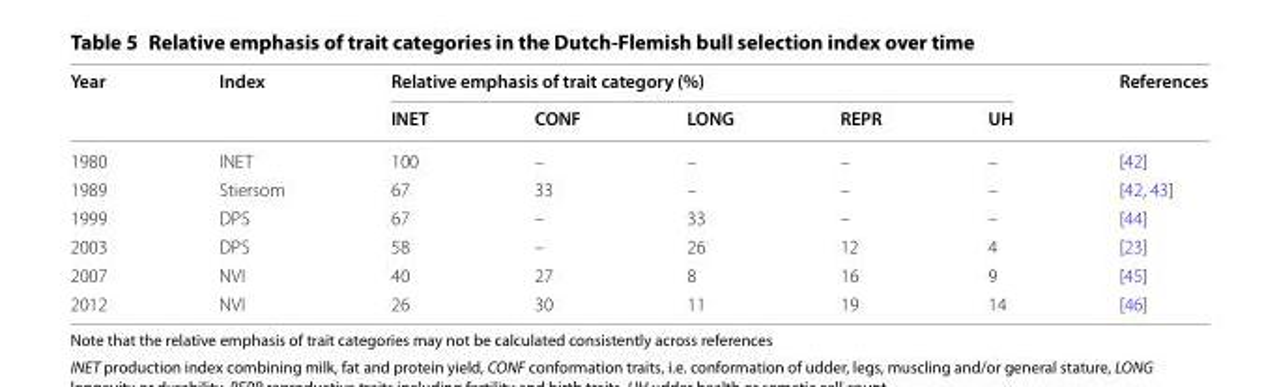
<table><thead><tr><td rowspan="2">Year</td><td rowspan="2">Index</td><td colspan="5">Relative emphasis of trait category (%)</td><td rowspan="2">References</td></tr><tr><td>INET</td><td>CONF</td><td>LONG</td><td>REPR</td><td>UH</td></tr></thead><tbody><tr><td>1980</td><td>INET</td><td>100</td><td>–</td><td>–</td><td>–</td><td>–</td><td>[42]</td></tr><tr><td>1989</td><td>Stiersom</td><td>67</td><td>33</td><td>–</td><td>–</td><td>–</td><td>[42, 43]</td></tr><tr><td>1999</td><td>DPS</td><td>67</td><td>–</td><td>33</td><td>–</td><td>–</td><td>[44]</td></tr><tr><td>2003</td><td>DPS</td><td>58</td><td>–</td><td>26</td><td>12</td><td>4</td><td>[23]</td></tr><tr><td>2007</td><td>NVI</td><td>40</td><td>27</td><td>8</td><td>16</td><td>9</td><td>[45]</td></tr><tr><td>2012</td><td>NVI</td><td>26</td><td>30</td><td>11</td><td>19</td><td>14</td><td>[46]</td></tr></tbody></table>